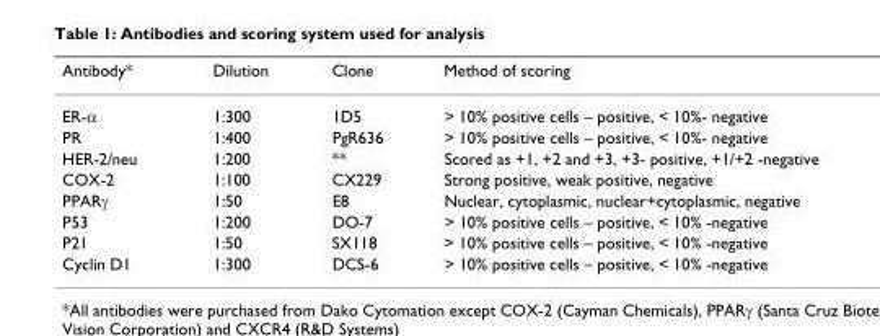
<table><thead><tr><td>Antibody*</td><td>Dilution</td><td>Clone</td><td>Method of scoring</td></tr></thead><tbody><tr><td>ER-α</td><td>1:300</td><td>1D5</td><td>&gt; 10% positive cells – positive, &lt; 10%- negative</td></tr><tr><td>PR</td><td>1:400</td><td>PgR636</td><td>&gt; 10% positive cells – positive, &lt; 10%- negative</td></tr><tr><td>HER-2/neu</td><td>1:200</td><td>**</td><td>Scored as +1, +2 and +3, +3- positive, +1/+2 -negative</td></tr><tr><td>COX-2</td><td>1:100</td><td>CX229</td><td>Strong positive, weak positive, negative</td></tr><tr><td>PPARγ</td><td>1:50</td><td>E8</td><td>Nuclear, cytoplasmic, nuclear+cytoplasmic, negative</td></tr><tr><td>P53</td><td>1:200</td><td>DO-7</td><td>&gt; 10% positive cells – positive, &lt; 10% -negative</td></tr><tr><td>P21</td><td>1:50</td><td>SX118</td><td>&gt; 10% positive cells – positive, &lt; 10% -negative</td></tr><tr><td>Cyclin D1</td><td>1:300</td><td>DCS-6</td><td>&gt; 10% positive cells – positive, &lt; 10% -negative</td></tr></tbody></table>